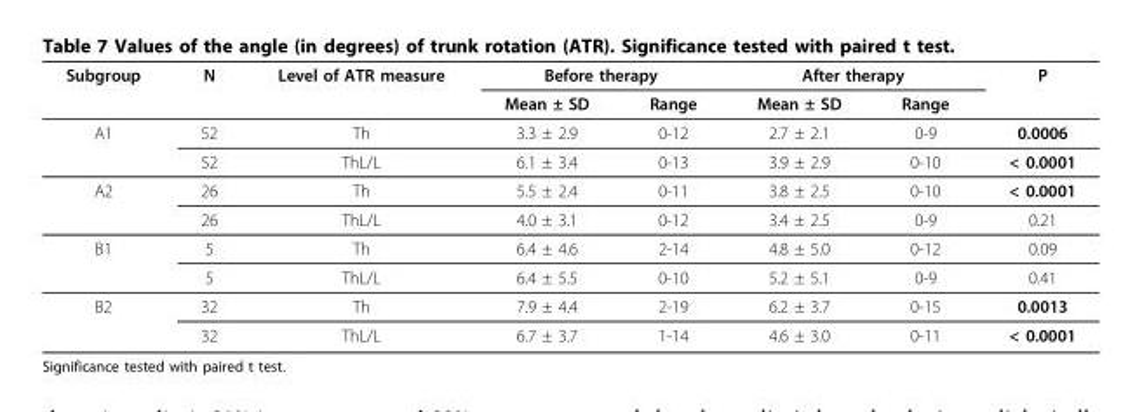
<table><thead><tr><td rowspan="2">Subgroup</td><td rowspan="2">N</td><td rowspan="2">Level of ATR measure</td><td colspan="2">Before therapy</td><td colspan="2">After therapy</td><td rowspan="2">P</td></tr><tr><td>Mean ± SD</td><td>Range</td><td>Mean ± SD</td><td>Range</td></tr></thead><tbody><tr><td rowspan="2">A1</td><td>52</td><td>Th</td><td>3.3 ± 2.9</td><td>0-12</td><td>2.7 ± 2.1</td><td>0-9</td><td>0.0006</td></tr><tr><td>52</td><td>ThL/L</td><td>6.1 ± 3.4</td><td>0-13</td><td>3.9 ± 2.9</td><td>0-10</td><td>&lt; 0.0001</td></tr><tr><td rowspan="2">A2</td><td>26</td><td>Th</td><td>5.5 ± 2.4</td><td>0-11</td><td>3.8 ± 2.5</td><td>0-10</td><td>&lt; 0.0001</td></tr><tr><td>26</td><td>ThL/L</td><td>4.0 ± 3.1</td><td>0-12</td><td>3.4 ± 2.5</td><td>0-9</td><td>0.21</td></tr><tr><td rowspan="2">B1</td><td>5</td><td>Th</td><td>6.4 ± 4.6</td><td>2-14</td><td>4.8 ± 5.0</td><td>0-12</td><td>0.09</td></tr><tr><td>5</td><td>ThL/L</td><td>6.4 ± 5.5</td><td>0-10</td><td>5.2 ± 5.1</td><td>0-9</td><td>0.41</td></tr><tr><td rowspan="2">B2</td><td>32</td><td>Th</td><td>7.9 ± 4.4</td><td>2-19</td><td>6.2 ± 3.7</td><td>0-15</td><td>0.0013</td></tr><tr><td>32</td><td>ThL/L</td><td>6.7 ± 3.7</td><td>1-14</td><td>4.6 ± 3.0</td><td>0-11</td><td>&lt; 0.0001</td></tr></tbody></table>